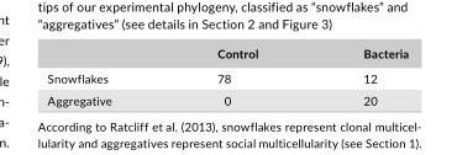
<table><thead><tr><td></td><td>Control</td><td>Bacteria</td></tr></thead><tbody><tr><td>Snowflakes</td><td>78</td><td>12</td></tr><tr><td>Aggregative</td><td>0</td><td>20</td></tr></tbody></table>